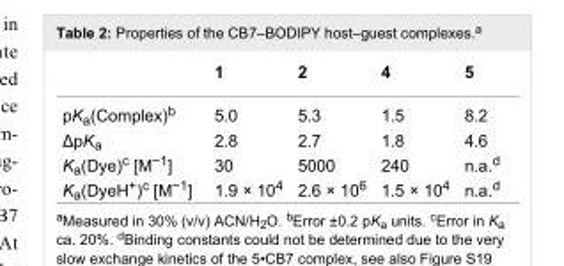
<table><thead><tr><td></td><td>1</td><td>2</td><td>4</td><td>5</td></tr></thead><tbody><tr><td>pK<sub>a</sub>(Complex)<sup>b</sup></td><td>5.0</td><td>5.3</td><td>1.5</td><td>8.2</td></tr><tr><td>ΔpK<sub>a</sub></td><td>2.8</td><td>2.7</td><td>1.8</td><td>4.6</td></tr><tr><td>K<sub>a</sub>(Dye)<sup>c</sup> [M<sup>−1</sup>]</td><td>30</td><td>5000</td><td>240</td><td>n.a.<sup>d</sup></td></tr><tr><td>K<sub>a</sub>(DyeH<sup>+</sup>)<sup>c</sup> [M<sup>−1</sup>]</td><td>1.9 × 10<sup>4</sup></td><td>2.6 × 10<sup>6</sup></td><td>1.5 × 10<sup>4</sup></td><td>n.a.<sup>d</sup></td></tr></tbody></table>